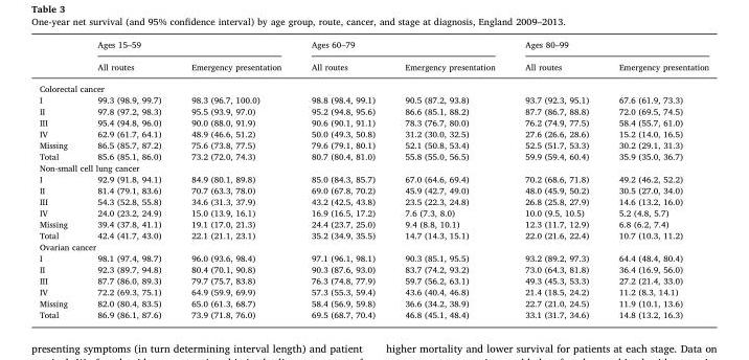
<table><thead><tr><td rowspan="2"></td><td colspan="2">Ages 15–59</td><td colspan="2">Ages 60–79</td><td colspan="2">Ages 80–99</td></tr><tr><td>All routes</td><td>Emergency presentation</td><td>All routes</td><td>Emergency presentation</td><td>All routes</td><td>Emergency presentation</td></tr></thead><tbody><tr><td colspan="7">Colorectal cancer</td></tr><tr><td>I</td><td>99.3 (98.9, 99.7)</td><td>98.3 (96.7, 100.0)</td><td>98.8 (98.4, 99.1)</td><td>90.5 (87.2, 93.8)</td><td>93.7 (92.3, 95.1)</td><td>67.6 (61.9, 73.3)</td></tr><tr><td>II</td><td>97.8 (97.2, 98.3)</td><td>95.5 (93.9, 97.0)</td><td>95.2 (94.8, 95.6)</td><td>86.6 (85.1, 88.2)</td><td>87.7 (86.7, 88.8)</td><td>72.0 (69.5, 74.5)</td></tr><tr><td>III</td><td>95.4 (94.8, 96.0)</td><td>90.0 (88.0, 91.9)</td><td>90.6 (90.1, 91.1)</td><td>78.3 (76.7, 80.0)</td><td>76.2 (74.9, 77.5)</td><td>58.4 (55.7, 61.0)</td></tr><tr><td>IV</td><td>62.9 (61.7, 64.1)</td><td>48.9 (46.6, 51.2)</td><td>50.0 (49.3, 50.8)</td><td>31.2 (30.0, 32.5)</td><td>27.6 (26.6, 28.6)</td><td>15.2 (14.0, 16.5)</td></tr><tr><td>Missing</td><td>86.5 (85.7, 87.2)</td><td>75.6 (73.8, 77.5)</td><td>79.6 (79.1, 80.1)</td><td>52.1 (50.8, 53.4)</td><td>52.5 (51.7, 53.3)</td><td>30.2 (29.1, 31.3)</td></tr><tr><td>Total</td><td>85.6 (85.1, 86.0)</td><td>73.2 (72.0, 74.3)</td><td>80.7 (80.4, 81.0)</td><td>55.8 (55.0, 56.5)</td><td>59.9 (59.4, 60.4)</td><td>35.9 (35.0, 36.7)</td></tr><tr><td colspan="7">Non-small cell lung cancer</td></tr><tr><td>I</td><td>92.9 (91.8, 94.1)</td><td>84.9 (80.1, 89.8)</td><td>85.0 (84.3, 85.7)</td><td>67.0 (64.6, 69.4)</td><td>70.2 (68.6, 71.8)</td><td>49.2 (46.2, 52.2)</td></tr><tr><td>II</td><td>81.4 (79.1, 83.6)</td><td>70.7 (63.3, 78.0)</td><td>69.0 (67.8, 70.2)</td><td>45.9 (42.7, 49.0)</td><td>48.0 (45.9, 50.2)</td><td>30.5 (27.0, 34.0)</td></tr><tr><td>III</td><td>54.3 (52.8, 55.8)</td><td>34.6 (31.3, 37.9)</td><td>43.2 (42.5, 43.8)</td><td>23.5 (22.3, 24.8)</td><td>26.8 (25.8, 27.9)</td><td>14.6 (13.2, 16.0)</td></tr><tr><td>IV</td><td>24.0 (23.2, 24.9)</td><td>15.0 (13.9, 16.1)</td><td>16.9 (16.5, 17.2)</td><td>7.6 (7.3, 8.0)</td><td>10.0 (9.5, 10.5)</td><td>5.2 (4.8, 5.7)</td></tr><tr><td>Missing</td><td>39.4 (37.8, 41.1)</td><td>19.1 (17.0, 21.3)</td><td>24.4 (23.7, 25.0)</td><td>9.4 (8.8, 10.1)</td><td>12.3 (11.7, 12.9)</td><td>6.8 (6.2, 7.4)</td></tr><tr><td>Total</td><td>42.4 (41.7, 43.0)</td><td>22.1 (21.1, 23.1)</td><td>35.2 (34.9, 35.5)</td><td>14.7 (14.3, 15.1)</td><td>22.0 (21.6, 22.4)</td><td>10.7 (10.3, 11.2)</td></tr><tr><td colspan="7">Ovarian cancer</td></tr><tr><td>I</td><td>98.1 (97.4, 98.7)</td><td>96.0 (93.6, 98.4)</td><td>97.1 (96.1, 98.1)</td><td>90.3 (85.1, 95.5)</td><td>93.2 (89.2, 97.3)</td><td>64.4 (48.4, 80.4)</td></tr><tr><td>II</td><td>92.3 (89.7, 94.8)</td><td>80.4 (70.1, 90.8)</td><td>90.3 (87.6, 93.0)</td><td>83.7 (74.2, 93.2)</td><td>73.0 (64.3, 81.8)</td><td>36.4 (16.9, 56.0)</td></tr><tr><td>III</td><td>87.7 (86.0, 89.3)</td><td>79.7 (75.7, 83.8)</td><td>76.3 (74.8, 77.9)</td><td>59.7 (56.2, 63.1)</td><td>49.3 (45.3, 53.3)</td><td>27.2 (21.4, 33.0)</td></tr><tr><td>IV</td><td>72.2 (69.3, 75.1)</td><td>64.9 (59.9, 69.9)</td><td>57.3 (55.3, 59.4)</td><td>43.6 (40.4, 46.8)</td><td>21.4 (18.5, 24.2)</td><td>11.2 (8.3, 14.1)</td></tr><tr><td>Missing</td><td>82.0 (80.4, 83.5)</td><td>65.0 (61.3, 68.7)</td><td>58.4 (56.9, 59.8)</td><td>36.6 (34.2, 38.9)</td><td>22.7 (21.0, 24.5)</td><td>11.9 (10.1, 13.6)</td></tr><tr><td>Total</td><td>86.9 (86.1, 87.6)</td><td>73.9 (71.8, 76.0)</td><td>69.5 (68.7, 70.4)</td><td>46.8 (45.1, 48.4)</td><td>33.1 (31.7, 34.6)</td><td>14.8 (13.2, 16.3)</td></tr></tbody></table>